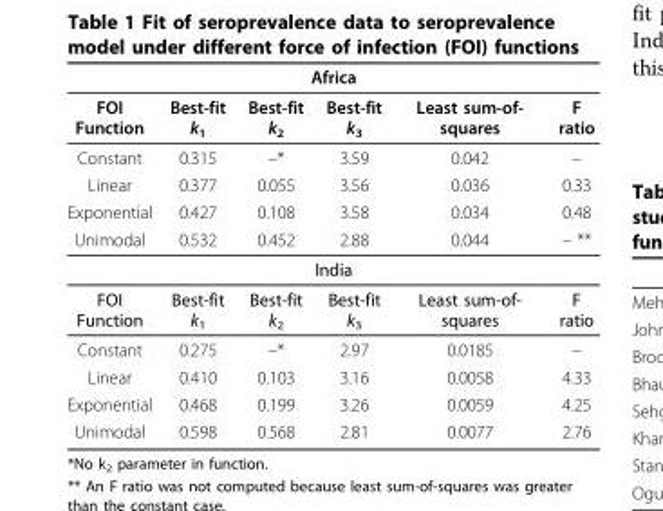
<table><thead><tr><td colspan="6">Africa</td></tr><tr><td>FOI Function</td><td>Best-fit k<sub>1</sub></td><td>Best-fit k<sub>2</sub></td><td>Best-fit k<sub>3</sub></td><td>Least sum-of- squares</td><td>F ratio</td></tr></thead><tbody><tr><td>Constant</td><td>0.315</td><td>–*</td><td>3.59</td><td>0.042</td><td>–</td></tr><tr><td>Linear</td><td>0.377</td><td>0.055</td><td>3.56</td><td>0.036</td><td>0.33</td></tr><tr><td>Exponential</td><td>0.427</td><td>0.108</td><td>3.58</td><td>0.034</td><td>0.48</td></tr><tr><td>Unimodal</td><td>0.532</td><td>0.452</td><td>2.88</td><td>0.044</td><td>– **</td></tr><tr><td colspan="6">India</td></tr><tr><td>FOI Function</td><td>Best-fit k<sub>1</sub></td><td>Best-fit k<sub>2</sub></td><td>Best-fit k<sub>3</sub></td><td>Least sum-of- squares</td><td>F ratio</td></tr><tr><td>Constant</td><td>0.275</td><td>–*</td><td>2.97</td><td>0.0185</td><td>–</td></tr><tr><td>Linear</td><td>0.410</td><td>0.103</td><td>3.16</td><td>0.0058</td><td>4.33</td></tr><tr><td>Exponential</td><td>0.468</td><td>0.199</td><td>3.26</td><td>0.0059</td><td>4.25</td></tr><tr><td>Unimodal</td><td>0.598</td><td>0.568</td><td>2.81</td><td>0.0077</td><td>2.76</td></tr></tbody></table>